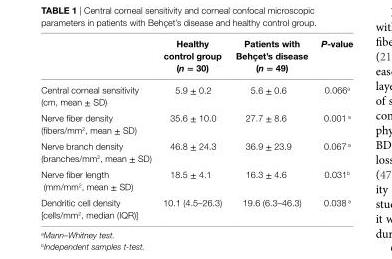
<table><thead><tr><td></td><td>healthy control group (n = 30)</td><td>Patients with Behçet’s disease (n = 49)</td><td>P-value</td></tr></thead><tbody><tr><td>Central corneal sensitivity (cm, mean ± SD)</td><td>5.9 ± 0.2</td><td>5.6 ± 0.6</td><td>0.066<sup>a</sup></td></tr><tr><td>Nerve fiber density (fibers/mm<sup>2</sup>, mean ± SD)</td><td>35.6 ± 10.0</td><td>27.7 ± 8.6</td><td>0.001 <sup>a</sup></td></tr><tr><td>Nerve branch density (branches/mm<sup>2</sup>, mean ± SD)</td><td>46.8 ± 24.3</td><td>36.9 ± 23.9</td><td>0.067 <sup>a</sup></td></tr><tr><td>Nerve fiber length (mm/mm<sup>2</sup>, mean ± SD)</td><td>18.5 ± 4.1</td><td>16.3 ± 4.6</td><td>0.031<sup>b</sup></td></tr><tr><td>Dendritic cell density [cells/mm<sup>2</sup>, median (IQR)]</td><td>10.1 (4.5–26.3)</td><td>19.6 (6.3–46.3)</td><td>0.038 <sup>a</sup></td></tr></tbody></table>